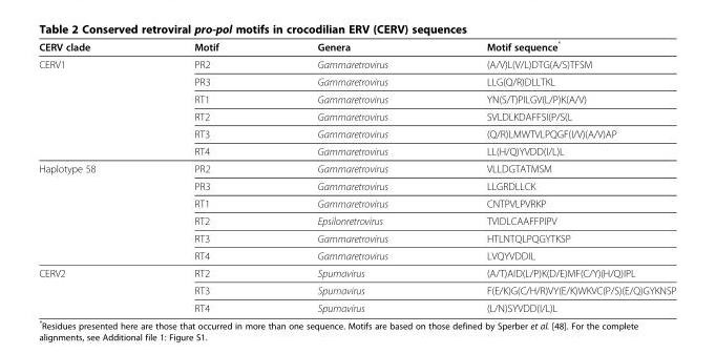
<table><thead><tr><td>CERV clade</td><td>Motif</td><td>Genera</td><td>Motif sequence*</td></tr></thead><tbody><tr><td rowspan="6">CERV1</td><td>PR2</td><td>Gammaretrovirus</td><td>(A/V)L(V/L)DTG(A/S)TFSM</td></tr><tr><td>PR3</td><td>Gammaretrovirus</td><td>LLG(Q/R)DLLTKL</td></tr><tr><td>RT1</td><td>Gammaretrovirus</td><td>YN(S/T)PILGV(L/P)K(A/V)</td></tr><tr><td>RT2</td><td>Gammaretrovirus</td><td>SVLDLKDAFFSI(P/S(L</td></tr><tr><td>RT3</td><td>Gammaretrovirus</td><td>(Q/R)LMWTVLPQGF(I/V)(A/V)AP</td></tr><tr><td>RT4</td><td>Gammaretrovirus</td><td>LL(H/Q)YVDD(I/L)L</td></tr><tr><td rowspan="6">Haplotype 58</td><td>PR2</td><td>Gammaretrovirus</td><td>VLLDGTATMSM</td></tr><tr><td>PR3</td><td>Gammaretrovirus</td><td>LLGRDLLCK</td></tr><tr><td>RT1</td><td>Gammaretrovirus</td><td>CNTPVLPVRKP</td></tr><tr><td>RT2</td><td>Epsilonretrovirus</td><td>TVIDLCAAFFPIPV</td></tr><tr><td>RT3</td><td>Gammaretrovirus</td><td>HTLNTQLPQGYTKSP</td></tr><tr><td>RT4</td><td>Gammaretrovirus</td><td>LVQYVDDIL</td></tr><tr><td rowspan="3">CERV2</td><td>RT2</td><td>Spumavirus</td><td>(A/T)AID(L/P)K(D/E)MF(C/Y)(H/Q)IPL</td></tr><tr><td>RT3</td><td>Spumavirus</td><td>F(E/K)G(C/H/R)VY(E/K)WKVC(P/S)(E/Q)GYKNSP</td></tr><tr><td>RT4</td><td>Spumavirus</td><td>(L/N)SYVDD(I/L)L</td></tr></tbody></table>